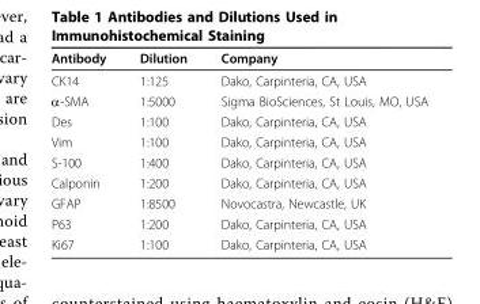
<table><thead><tr><td>Antibody</td><td>Dilution</td><td>Company</td></tr></thead><tbody><tr><td>CK14</td><td>1:125</td><td>Dako, Carpinteria, CA, USA</td></tr><tr><td>α-SMA</td><td>1:5000</td><td>Sigma BioSciences, St Louis, MO, USA</td></tr><tr><td>Des</td><td>1:100</td><td>Dako, Carpinteria, CA, USA</td></tr><tr><td>Vim</td><td>1:100</td><td>Dako, Carpinteria, CA, USA</td></tr><tr><td>S-100</td><td>1:400</td><td>Dako, Carpinteria, CA, USA</td></tr><tr><td>Calponin</td><td>1:200</td><td>Dako, Carpinteria, CA, USA</td></tr><tr><td>GFAP</td><td>1:8500</td><td>Novocastra, Newcastle, UK</td></tr><tr><td>P63</td><td>1:200</td><td>Dako, Carpinteria, CA, USA</td></tr><tr><td>Ki67</td><td>1:100</td><td>Dako, Carpinteria, CA, USA</td></tr></tbody></table>